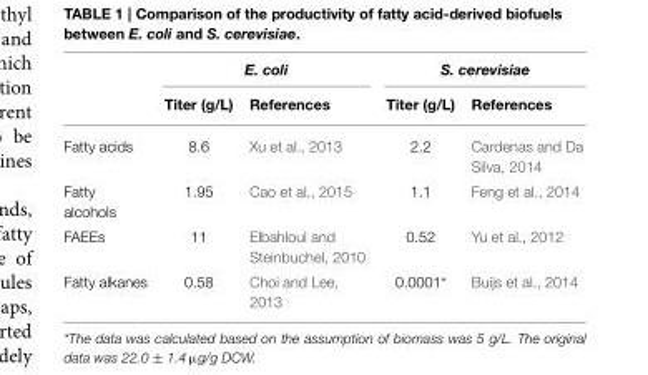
<table><thead><tr><td rowspan="2"></td><td colspan="2">E. coli</td><td colspan="2">S. cerevisiae</td></tr><tr><td>Titer (g/L)</td><td>References</td><td>Titer (g/L)</td><td>References</td></tr></thead><tbody><tr><td>Fatty acids</td><td>8.6</td><td>Xu et al., 2013</td><td>2.2</td><td>Cardenas and Da Silva, 2014</td></tr><tr><td>Fatty alcohols</td><td>1.95</td><td>Cao et al., 2015</td><td>1.1</td><td>Feng et al., 2014</td></tr><tr><td>FAEEs</td><td>11</td><td>Elbahloul and Steinbuchel, 2010</td><td>0.52</td><td>Yu et al., 2012</td></tr><tr><td>Fatty alkanes</td><td>0.58</td><td>Choi and Lee, 2013</td><td>0.0001*</td><td>Buijs et al., 2014</td></tr></tbody></table>